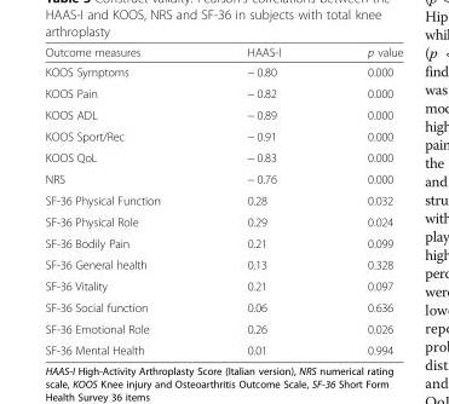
<table><thead><tr><td>Outcome measures</td><td>HAAS-I</td><td>p value</td></tr></thead><tbody><tr><td>KOOS Symptoms</td><td>− 0.80</td><td>0.000</td></tr><tr><td>KOOS Pain</td><td>− 0.82</td><td>0.000</td></tr><tr><td>KOOS ADL</td><td>− 0.89</td><td>0.000</td></tr><tr><td>KOOS Sport/Rec</td><td>− 0.91</td><td>0.000</td></tr><tr><td>KOOS QoL</td><td>− 0.83</td><td>0.000</td></tr><tr><td>NRS</td><td>− 0.76</td><td>0.000</td></tr><tr><td>SF-36 Physical Function</td><td>0.28</td><td>0.032</td></tr><tr><td>SF-36 Physical Role</td><td>0.29</td><td>0.024</td></tr><tr><td>SF-36 Bodily Pain</td><td>0.21</td><td>0.099</td></tr><tr><td>SF-36 General health</td><td>0.13</td><td>0.328</td></tr><tr><td>SF-36 Vitality</td><td>0.21</td><td>0.097</td></tr><tr><td>SF-36 Social function</td><td>0.06</td><td>0.636</td></tr><tr><td>SF-36 Emotional Role</td><td>0.26</td><td>0.026</td></tr><tr><td>SF-36 Mental Health</td><td>0.01</td><td>0.994</td></tr></tbody></table>